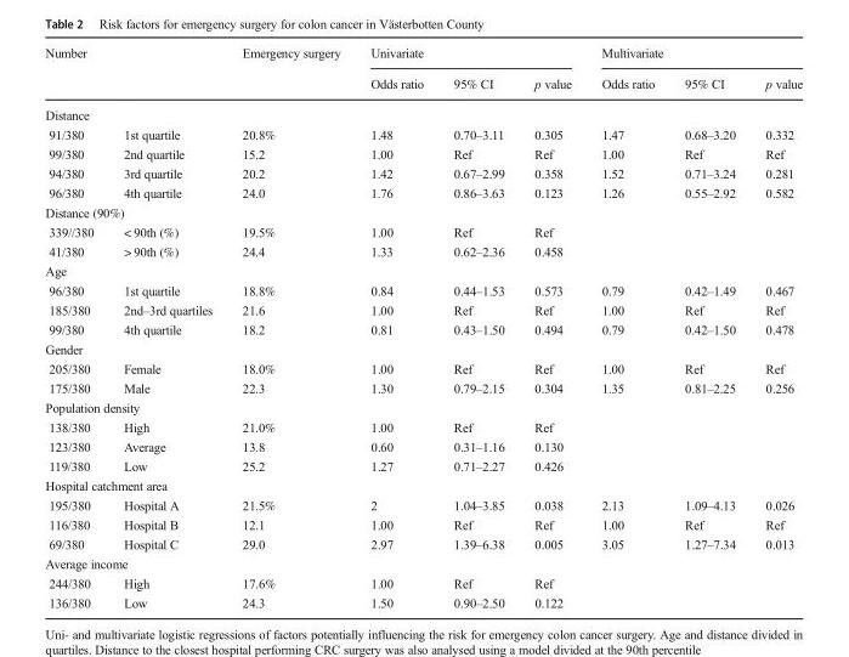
<table><thead><tr><td rowspan="2">Number</td><td rowspan="2"></td><td rowspan="2">Emergency surgery</td><td colspan="3">Univariate</td><td colspan="3">Multivariate</td></tr><tr><td>Odds ratio</td><td>95% CI</td><td>p value</td><td>Odds ratio</td><td>95% CI</td><td>p value</td></tr></thead><tbody><tr><td colspan="9">Distance</td></tr><tr><td>91/380</td><td>1st quartile</td><td>20.8%</td><td>1.48</td><td>0.70–3.11</td><td>0.305</td><td>1.47</td><td>0.68–3.20</td><td>0.332</td></tr><tr><td>99/380</td><td>2nd quartile</td><td>15.2</td><td>1.00</td><td>Ref</td><td>Ref</td><td>1.00</td><td>Ref</td><td>Ref</td></tr><tr><td>94/380</td><td>3rd quartile</td><td>20.2</td><td>1.42</td><td>0.67–2.99</td><td>0.358</td><td>1.52</td><td>0.71–3.24</td><td>0.281</td></tr><tr><td>96/380</td><td>4th quartile</td><td>24.0</td><td>1.76</td><td>0.86–3.63</td><td>0.123</td><td>1.26</td><td>0.55–2.92</td><td>0.582</td></tr><tr><td colspan="9">Distance (90%)</td></tr><tr><td>339//380</td><td>&lt; 90th (%)</td><td>19.5%</td><td>1.00</td><td>Ref</td><td>Ref</td><td></td><td></td><td></td></tr><tr><td>41/380</td><td>&gt; 90th (%)</td><td>24.4</td><td>1.33</td><td>0.62–2.36</td><td>0.458</td><td></td><td></td><td></td></tr><tr><td colspan="9">Age</td></tr><tr><td>96/380</td><td>1st quartile</td><td>18.8%</td><td>0.84</td><td>0.44–1.53</td><td>0.573</td><td>0.79</td><td>0.42–1.49</td><td>0.467</td></tr><tr><td>185/380</td><td>2nd–3rd quartiles</td><td>21.6</td><td>1.00</td><td>Ref</td><td>Ref</td><td>1.00</td><td>Ref</td><td>Ref</td></tr><tr><td>99/380</td><td>4th quartile</td><td>18.2</td><td>0.81</td><td>0.43–1.50</td><td>0.494</td><td>0.79</td><td>0.42–1.50</td><td>0.478</td></tr><tr><td colspan="9">Gender</td></tr><tr><td>205/380</td><td>Female</td><td>18.0%</td><td>1.00</td><td>Ref</td><td>Ref</td><td>1.00</td><td>Ref</td><td>Ref</td></tr><tr><td>175/380</td><td>Male</td><td>22.3</td><td>1.30</td><td>0.79–2.15</td><td>0.304</td><td>1.35</td><td>0.81–2.25</td><td>0.256</td></tr><tr><td colspan="9">Population density</td></tr><tr><td>138/380</td><td>High</td><td>21.0%</td><td>1.00</td><td>Ref</td><td>Ref</td><td></td><td></td><td></td></tr><tr><td>123/380</td><td>Average</td><td>13.8</td><td>0.60</td><td>0.31–1.16</td><td>0.130</td><td></td><td></td><td></td></tr><tr><td>119/380</td><td>Low</td><td>25.2</td><td>1.27</td><td>0.71–2.27</td><td>0.426</td><td></td><td></td><td></td></tr><tr><td colspan="9">Hospital catchment area</td></tr><tr><td>195/380</td><td>Hospital A</td><td>21.5%</td><td>2</td><td>1.04–3.85</td><td>0.038</td><td>2.13</td><td>1.09–4.13</td><td>0.026</td></tr><tr><td>116/380</td><td>Hospital B</td><td>12.1</td><td>1.00</td><td>Ref</td><td>Ref</td><td>1.00</td><td>Ref</td><td>Ref</td></tr><tr><td>69/380</td><td>Hospital C</td><td>29.0</td><td>2.97</td><td>1.39–6.38</td><td>0.005</td><td>3.05</td><td>1.27–7.34</td><td>0.013</td></tr><tr><td colspan="9">Average income</td></tr><tr><td>244/380</td><td>High</td><td>17.6%</td><td>1.00</td><td>Ref</td><td>Ref</td><td></td><td></td><td></td></tr><tr><td>136/380</td><td>Low</td><td>24.3</td><td>1.50</td><td>0.90–2.50</td><td>0.122</td><td></td><td></td><td></td></tr></tbody></table>